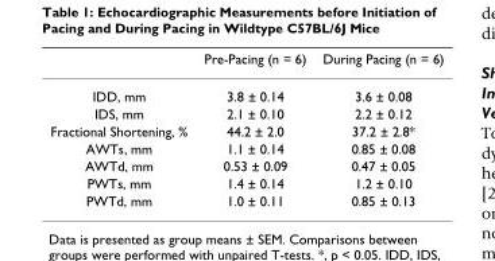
<table><thead><tr><td></td><td>Pre-Pacing (n = 6)</td><td>During Pacing (n = 6)</td></tr></thead><tbody><tr><td>IDD, mm</td><td>3.8 ± 0.14</td><td>3.6 ± 0.08</td></tr><tr><td>IDS, mm</td><td>2.1 ± 0.10</td><td>2.2 ± 0.12</td></tr><tr><td>Fractional Shortening, %</td><td>44.2 ± 2.0</td><td>37.2 ± 2.8*</td></tr><tr><td>AWTs, mm</td><td>1.1 ± 0.14</td><td>0.85 ± 0.08</td></tr><tr><td>AWTd, mm</td><td>0.53 ± 0.09</td><td>0.47 ± 0.05</td></tr><tr><td>PWTs, mm</td><td>1.4 ± 0.14</td><td>1.2 ± 0.10</td></tr><tr><td>PWTd, mm</td><td>1.0 ± 0.11</td><td>0.85 ± 0.13</td></tr></tbody></table>